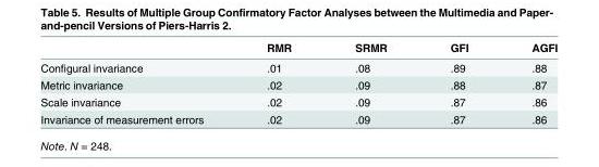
<table><thead><tr><td></td><td>RMR</td><td>SRMR</td><td>GFI</td><td>AGFI</td></tr></thead><tbody><tr><td>Configural invariance</td><td>.01</td><td>.08</td><td>.89</td><td>.88</td></tr><tr><td>Metric invariance</td><td>.02</td><td>.09</td><td>.88</td><td>.87</td></tr><tr><td>Scale invariance</td><td>.02</td><td>.09</td><td>.87</td><td>.86</td></tr><tr><td>Invariance of measurement errors</td><td>.02</td><td>.09</td><td>.87</td><td>.86</td></tr></tbody></table>